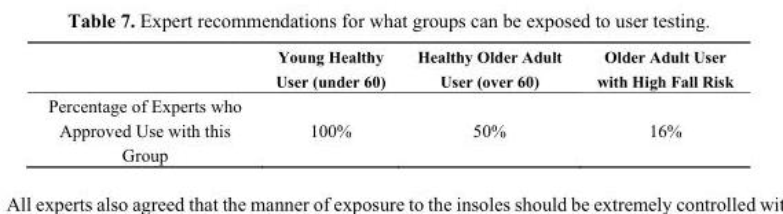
<table><thead><tr><td></td><td>Young Healthy User (under 60)</td><td>Healthy Older Adult User (over 60)</td><td>Older Adult User with High Fall Risk</td></tr></thead><tbody><tr><td>Percentage of Experts who Approved Use with this Group</td><td>100%</td><td>50%</td><td>16%</td></tr></tbody></table>